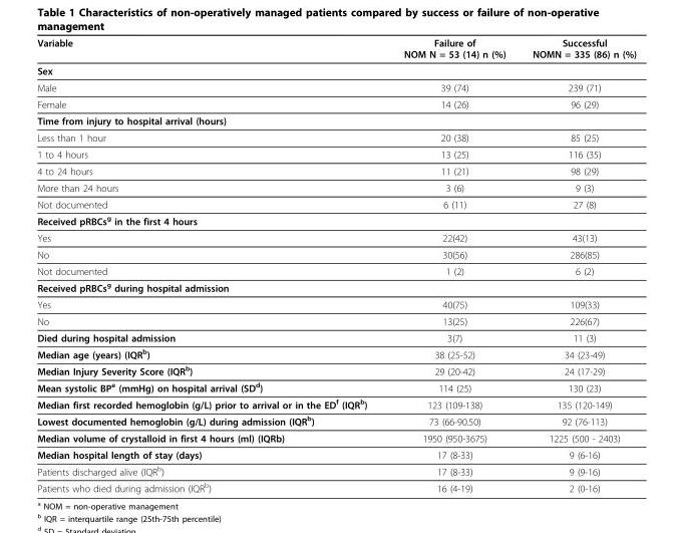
<table><thead><tr><td>Variable</td><td>Failure of NOM N = 53 (14) n (%)</td><td>Successful NOMN = 335 (86) n (%)</td></tr></thead><tbody><tr><td colspan="3">Sex</td></tr><tr><td>Male</td><td>39 (74)</td><td>239 (71)</td></tr><tr><td>Female</td><td>14 (26)</td><td>96 (29)</td></tr><tr><td colspan="3">Time from injury to hospital arrival (hours)</td></tr><tr><td>Less than 1 hour</td><td>20 (38)</td><td>85 (25)</td></tr><tr><td>1 to 4 hours</td><td>13 (25)</td><td>116 (35)</td></tr><tr><td>4 to 24 hours</td><td>11 (21)</td><td>98 (29)</td></tr><tr><td>More than 24 hours</td><td>3 (6)</td><td>9 (3)</td></tr><tr><td>Not documented</td><td>6 (11)</td><td>27 (8)</td></tr><tr><td colspan="3">Received pRBCs<sup>g</sup> in the first 4 hours</td></tr><tr><td>Yes</td><td>22(42)</td><td>43(13)</td></tr><tr><td>No</td><td>30(56)</td><td>286(85)</td></tr><tr><td>Not documented</td><td>1 (2)</td><td>6 (2)</td></tr><tr><td colspan="3">Received pRBCs<sup>g</sup> during hospital admission</td></tr><tr><td>Yes</td><td>40(75)</td><td>109(33)</td></tr><tr><td>No</td><td>13(25)</td><td>226(67)</td></tr><tr><td>Died during hospital admission</td><td>3(7)</td><td>11 (3)</td></tr><tr><td>Median age (years) (IQR<sup>b</sup>)</td><td>38 (25-52)</td><td>34 (23-49)</td></tr><tr><td>Median Injury Severity Score (IQR<sup>b</sup>)</td><td>29 (20-42)</td><td>24 (17-29)</td></tr><tr><td>Mean systolic BP<sup>e</sup> (mmHg) on hospital arrival (SD<sup>d</sup>)</td><td>114 (25)</td><td>130 (23)</td></tr><tr><td>Median first recorded hemoglobin (g/L) prior to arrival or in the ED<sup>f</sup> (IQR<sup>b</sup>)</td><td>123 (109-138)</td><td>135 (120-149)</td></tr><tr><td>Lowest documented hemoglobin (g/L) during admission (IQR<sup>b</sup>)</td><td>73 (66-90.50)</td><td>92 (76-113)</td></tr><tr><td>Median volume of crystalloid in first 4 hours (ml) (IQRb)</td><td>1950 (950-3675)</td><td>1225 (500 - 2403)</td></tr><tr><td>Median hospital length of stay (days)</td><td>17 (8-33)</td><td>9 (6-16)</td></tr><tr><td>Patients discharged alive (IQR<sup>b</sup>)</td><td>17 (8-33)</td><td>9 (9-16)</td></tr><tr><td>Patients who died during admission (IQR<sup>b</sup>)</td><td>16 (4-19)</td><td>2 (0-16)</td></tr></tbody></table>